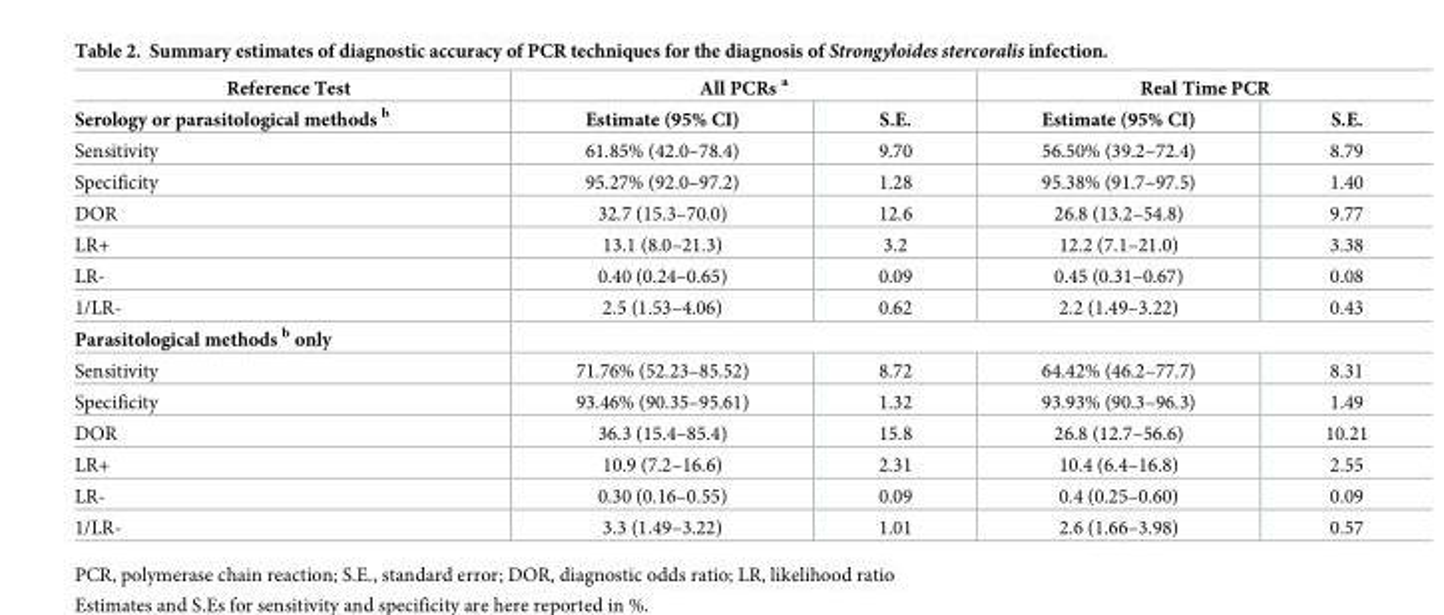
<table><thead><tr><td rowspan="2">Reference Test Serology or parasitological methods <sup>b</sup></td><td colspan="2">All PCRs <sup>a</sup></td><td colspan="2">Real Time PCR</td></tr><tr><td>Estimate (95% CI)</td><td>S.E.</td><td>Estimate (95% CI)</td><td>S.E.</td></tr></thead><tbody><tr><td>Sensitivity</td><td>61.85% (42.0–78.4)</td><td>9.70</td><td>56.50% (39.2–72.4)</td><td>8.79</td></tr><tr><td>Specificity</td><td>95.27% (92.0–97.2)</td><td>1.28</td><td>95.38% (91.7–97.5)</td><td>1.40</td></tr><tr><td>DOR</td><td>32.7 (15.3–70.0)</td><td>12.6</td><td>26.8 (13.2–54.8)</td><td>9.77</td></tr><tr><td>LR+</td><td>13.1 (8.0–21.3)</td><td>3.2</td><td>12.2 (7.1–21.0)</td><td>3.38</td></tr><tr><td>LR-</td><td>0.40 (0.24–0.65)</td><td>0.09</td><td>0.45 (0.31–0.67)</td><td>0.08</td></tr><tr><td>1/LR-</td><td>2.5 (1.53–4.06)</td><td>0.62</td><td>2.2 (1.49–3.22)</td><td>0.43</td></tr><tr><td colspan="5">Parasitological methods <sup>b</sup> only</td></tr><tr><td>Sensitivity</td><td>71.76% (52.23–85.52)</td><td>8.72</td><td>64.42% (46.2–77.7)</td><td>8.31</td></tr><tr><td>Specificity</td><td>93.46% (90.35–95.61)</td><td>1.32</td><td>93.93% (90.3–96.3)</td><td>1.49</td></tr><tr><td>DOR</td><td>36.3 (15.4–85.4)</td><td>15.8</td><td>26.8 (12.7–56.6)</td><td>10.21</td></tr><tr><td>LR+</td><td>10.9 (7.2–16.6)</td><td>2.31</td><td>10.4 (6.4–16.8)</td><td>2.55</td></tr><tr><td>LR-</td><td>0.30 (0.16–0.55)</td><td>0.09</td><td>0.4 (0.25–0.60)</td><td>0.09</td></tr><tr><td>1/LR-</td><td>3.3 (1.49–3.22)</td><td>1.01</td><td>2.6 (1.66–3.98)</td><td>0.57</td></tr></tbody></table>